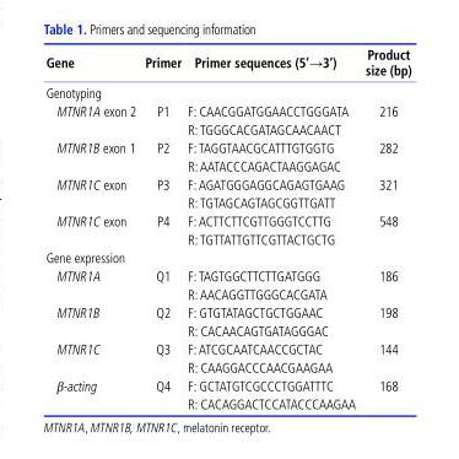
<table><thead><tr><td>Gene</td><td>Primer</td><td>Primer sequences (5’→3’)</td><td>Product size (bp)</td></tr></thead><tbody><tr><td colspan="4">Genotyping</td></tr><tr><td>MTNR1A exon 2</td><td>P1</td><td>F: CAACGGATGGAACCTGGGATA R: TGGGCACGATAGCAACAACT</td><td>216</td></tr><tr><td>MTNR1B exon 1</td><td>P2</td><td>F: TAGGTAACGCATTTGTGGTG R: AATACCCAGACTAAGGAGAC</td><td>282</td></tr><tr><td>MTNR1C exon</td><td>P3</td><td>F: AGATGGGAGGCAGAGTGAAG R: TGTAGCAGTAGCGGTTGATT</td><td>321</td></tr><tr><td>MTNR1C exon</td><td>P4</td><td>F: ACTTCTTCGTTGGGTCCTTG R: TGTTATTGTTCGTTACTGCTG</td><td>548</td></tr><tr><td colspan="4">Gene expression</td></tr><tr><td>MTNR1A</td><td>Q1</td><td>F: TAGTGGCTTCTTGATGGG R: AACAGGTTGGGCACGATA</td><td>186</td></tr><tr><td>MTNR1B</td><td>Q2</td><td>F: GTGTATAGCTGCTGGAAC R: CACAACAGTGATAGGGAC</td><td>198</td></tr><tr><td>MTNR1C</td><td>Q3</td><td>F: ATCGCAATCAACCGCTAC R: CAAGGACCCAACGAAGAA</td><td>144</td></tr><tr><td>β-acting</td><td>Q4</td><td>F: GCTATGTCGCCCTGGATTTC R: CACAGGACTCCATACCCAAGAA</td><td>168</td></tr></tbody></table>